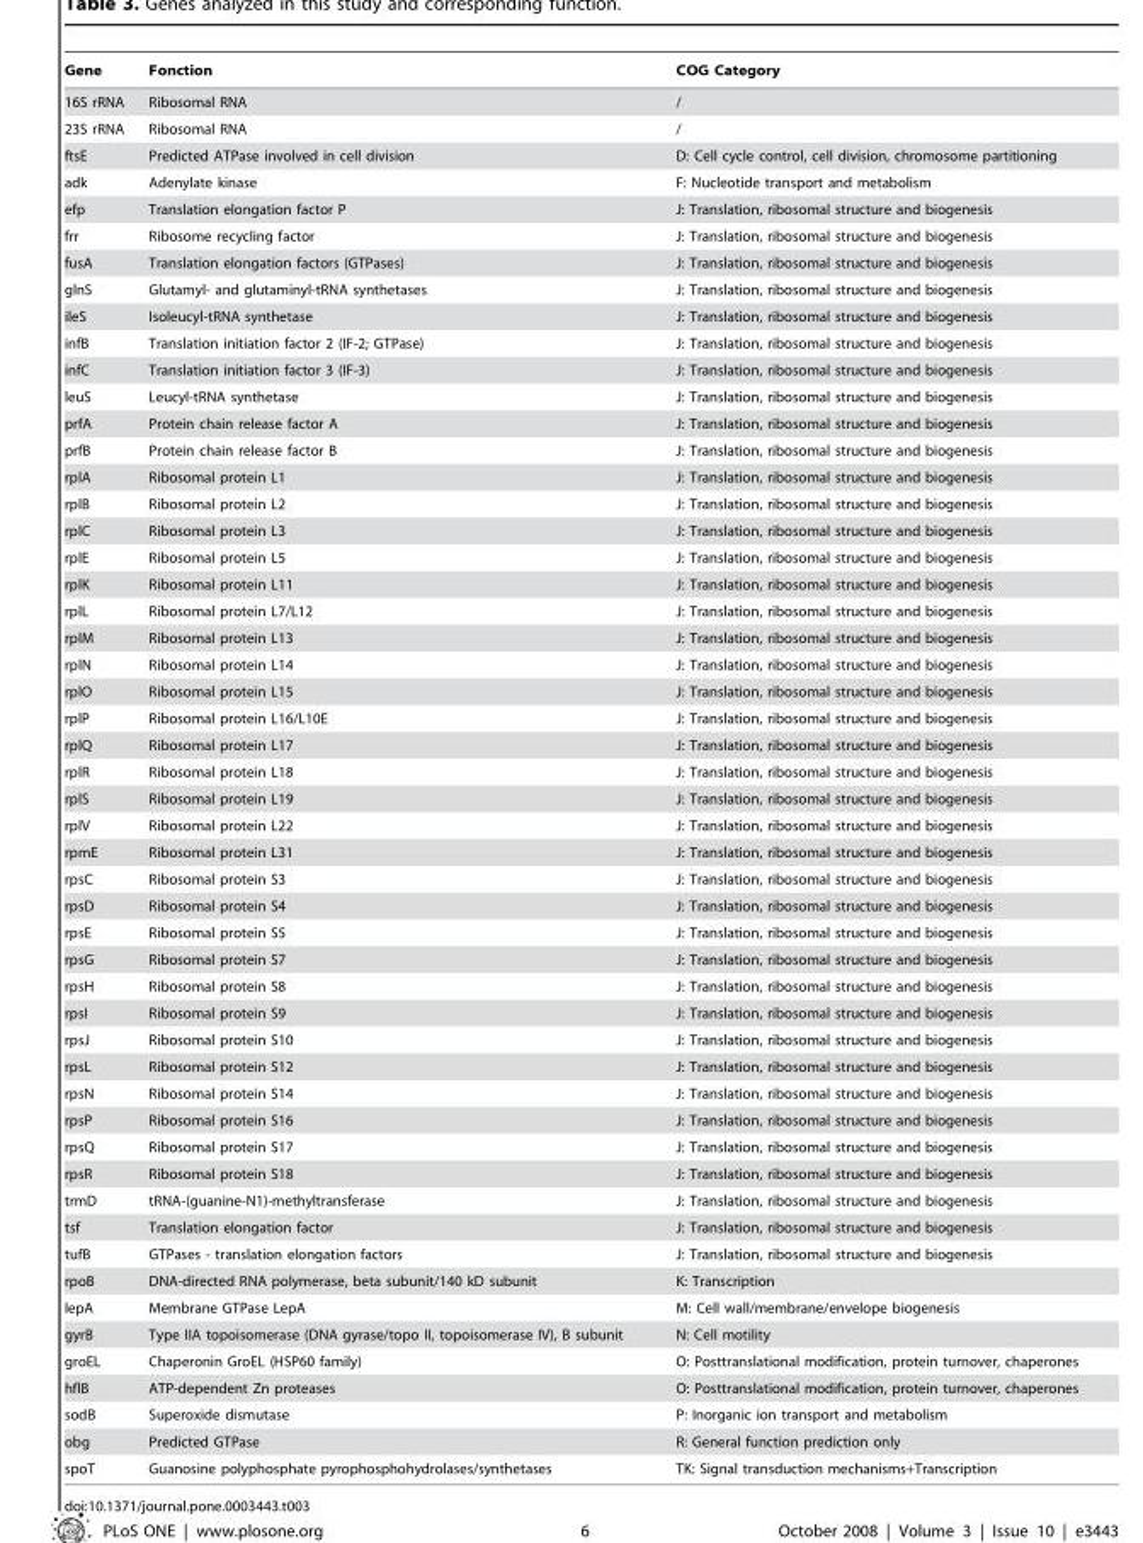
<table><thead><tr><td>Gene</td><td>Fonction</td><td>COG Category</td></tr></thead><tbody><tr><td>16S rRNA</td><td>Ribosomal RNA</td><td>/</td></tr><tr><td>23S rRNA</td><td>Ribosomal RNA</td><td>/</td></tr><tr><td>ftsE</td><td>Predicted ATPase involved in cell division</td><td>D: Cell cycle control, cell division, chromosome partitioning</td></tr><tr><td>adk</td><td>Adenylate kinase</td><td>F: Nucleotide transport and metabolism</td></tr><tr><td>efp</td><td>Translation elongation factor P</td><td>J: Translation, ribosomal structure and biogenesis</td></tr><tr><td>frr</td><td>Ribosome recycling factor</td><td>J: Translation, ribosomal structure and biogenesis</td></tr><tr><td>fusA</td><td>Translation elongation factors (GTPases)</td><td>J: Translation, ribosomal structure and biogenesis</td></tr><tr><td>glnS</td><td>Glutamyl- and glutaminyl-tRNA synthetases</td><td>J: Translation, ribosomal structure and biogenesis</td></tr><tr><td>ileS</td><td>Isoleucyl-tRNA synthetase</td><td>J: Translation, ribosomal structure and biogenesis</td></tr><tr><td>infB</td><td>Translation initiation factor 2 (IF-2; GTPase)</td><td>J: Translation, ribosomal structure and biogenesis</td></tr><tr><td>infC</td><td>Translation initiation factor 3 (IF-3)</td><td>J: Translation, ribosomal structure and biogenesis</td></tr><tr><td>leuS</td><td>Leucyl-tRNA synthetase</td><td>J: Translation, ribosomal structure and biogenesis</td></tr><tr><td>prfA</td><td>Protein chain release factor A</td><td>J: Translation, ribosomal structure and biogenesis</td></tr><tr><td>prfB</td><td>Protein chain release factor B</td><td>J: Translation, ribosomal structure and biogenesis</td></tr><tr><td>rplA</td><td>Ribosomal protein L1</td><td>J: Translation, ribosomal structure and biogenesis</td></tr><tr><td>rplB</td><td>Ribosomal protein L2</td><td>J: Translation, ribosomal structure and biogenesis</td></tr><tr><td>rplC</td><td>Ribosomal protein L3</td><td>J: Translation, ribosomal structure and biogenesis</td></tr><tr><td>rplE</td><td>Ribosomal protein L5</td><td>J: Translation, ribosomal structure and biogenesis</td></tr><tr><td>rplK</td><td>Ribosomal protein L11</td><td>J: Translation, ribosomal structure and biogenesis</td></tr><tr><td>rplL</td><td>Ribosomal protein L7/L12</td><td>J: Translation, ribosomal structure and biogenesis</td></tr><tr><td>rplM</td><td>Ribosomal protein L13</td><td>J: Translation, ribosomal structure and biogenesis</td></tr><tr><td>rplN</td><td>Ribosomal protein L14</td><td>J: Translation, ribosomal structure and biogenesis</td></tr><tr><td>rplO</td><td>Ribosomal protein L15</td><td>J: Translation, ribosomal structure and biogenesis</td></tr><tr><td>rplP</td><td>Ribosomal protein L16/L10E</td><td>J: Translation, ribosomal structure and biogenesis</td></tr><tr><td>rplQ</td><td>Ribosomal protein L17</td><td>J: Translation, ribosomal structure and biogenesis</td></tr><tr><td>rplR</td><td>Ribosomal protein L18</td><td>J: Translation, ribosomal structure and biogenesis</td></tr><tr><td>rplS</td><td>Ribosomal protein L19</td><td>J: Translation, ribosomal structure and biogenesis</td></tr><tr><td>rplV</td><td>Ribosomal protein L22</td><td>J: Translation, ribosomal structure and biogenesis</td></tr><tr><td>rpmE</td><td>Ribosomal protein L31</td><td>J: Translation, ribosomal structure and biogenesis</td></tr><tr><td>rpsC</td><td>Ribosomal protein S3</td><td>J: Translation, ribosomal structure and biogenesis</td></tr><tr><td>rpsD</td><td>Ribosomal protein S4</td><td>J: Translation, ribosomal structure and biogenesis</td></tr><tr><td>rpsE</td><td>Ribosomal protein S5</td><td>J: Translation, ribosomal structure and biogenesis</td></tr><tr><td>rpsG</td><td>Ribosomal protein S7</td><td>J: Translation, ribosomal structure and biogenesis</td></tr><tr><td>rpsH</td><td>Ribosomal protein S8</td><td>J: Translation, ribosomal structure and biogenesis</td></tr><tr><td>rpsI</td><td>Ribosomal protein S9</td><td>J: Translation, ribosomal structure and biogenesis</td></tr><tr><td>rpsJ</td><td>Ribosomal protein S10</td><td>J: Translation, ribosomal structure and biogenesis</td></tr><tr><td>rpsL</td><td>Ribosomal protein S12</td><td>J: Translation, ribosomal structure and biogenesis</td></tr><tr><td>rpsN</td><td>Ribosomal protein S14</td><td>J: Translation, ribosomal structure and biogenesis</td></tr><tr><td>rpsP</td><td>Ribosomal protein S16</td><td>J: Translation, ribosomal structure and biogenesis</td></tr><tr><td>rpsQ</td><td>Ribosomal protein S17</td><td>J: Translation, ribosomal structure and biogenesis</td></tr><tr><td>rpsR</td><td>Ribosomal protein S18</td><td>J: Translation, ribosomal structure and biogenesis</td></tr><tr><td>trmD</td><td>tRNA-(guanine-N1)-methyltransferase</td><td>J: Translation, ribosomal structure and biogenesis</td></tr><tr><td>tsf</td><td>Translation elongation factor</td><td>J: Translation, ribosomal structure and biogenesis</td></tr><tr><td>tufB</td><td>GTPases - translation elongation factors</td><td>J: Translation, ribosomal structure and biogenesis</td></tr><tr><td>rpoB</td><td>DNA-directed RNA polymerase, beta subunit/140 kD subunit</td><td>K: Transcription</td></tr><tr><td>lepA</td><td>Membrane GTPase LepA</td><td>M: Cell wall/membrane/envelope biogenesis</td></tr><tr><td>gyrB</td><td>Type IIA topoisomerase (DNA gyrase/topo II, topoisomerase IV), B subunit</td><td>N: Cell motility</td></tr><tr><td>groEL</td><td>Chaperonin GroEL (HSP60 family)</td><td>O: Posttranslational modification, protein turnover, chaperones</td></tr><tr><td>hflB</td><td>ATP-dependent Zn proteases</td><td>O: Posttranslational modification, protein turnover, chaperones</td></tr><tr><td>sodB</td><td>Superoxide dismutase</td><td>P: Inorganic ion transport and metabolism</td></tr><tr><td>obg</td><td>Predicted GTPase</td><td>R: General function prediction only</td></tr><tr><td>spoT</td><td>Guanosine polyphosphate pyrophosphohydrolases/synthetases</td><td>TK: Signal transduction mechanisms+Transcription</td></tr></tbody></table>